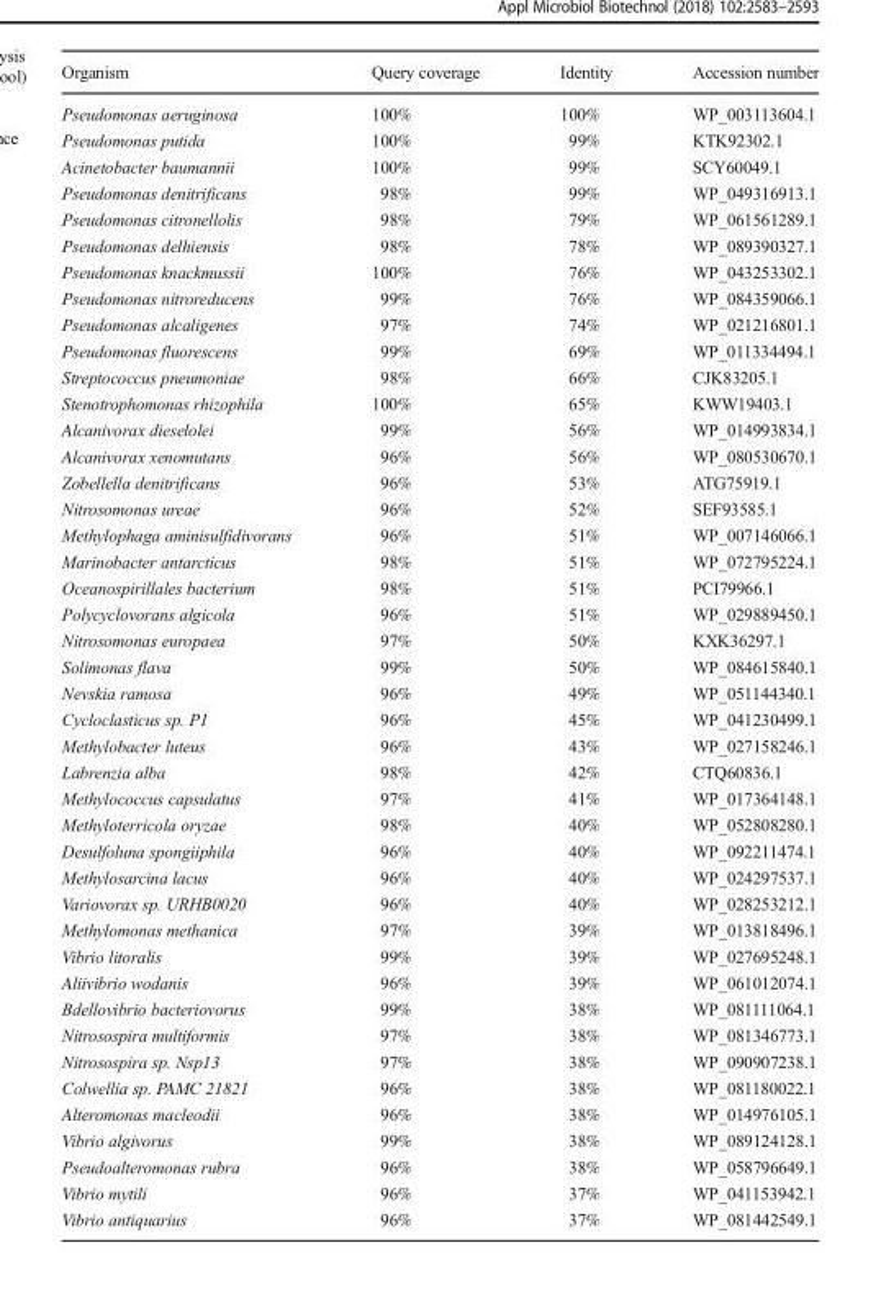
<table><thead><tr><td>Organism</td><td>Query coverage</td><td>Identity</td><td>Accession number</td></tr></thead><tbody><tr><td>Pseudomonas aeruginosa</td><td>100%</td><td>100%</td><td>WP_003113604.1</td></tr><tr><td>Pseudomonas putida</td><td>100%</td><td>99%</td><td>KTK92302.1</td></tr><tr><td>Acinetobacter baumannii</td><td>100%</td><td>99%</td><td>SCY60049.1</td></tr><tr><td>Pseudomonas denitrificans</td><td>98%</td><td>99%</td><td>WP_049316913.1</td></tr><tr><td>Pseudomonas citronellolis</td><td>98%</td><td>79%</td><td>WP_061561289.1</td></tr><tr><td>Pseudomonas delhiensis</td><td>98%</td><td>78%</td><td>WP_089390327.1</td></tr><tr><td>Pseudomonas knackmussii</td><td>100%</td><td>76%</td><td>WP_043253302.1</td></tr><tr><td>Pseudomonas nitroreducens</td><td>99%</td><td>76%</td><td>WP_084359066.1</td></tr><tr><td>Pseudomonas alcaligenes</td><td>97%</td><td>74%</td><td>WP_021216801.1</td></tr><tr><td>Pseudomonas fluorescens</td><td>99%</td><td>69%</td><td>WP_011334494.1</td></tr><tr><td>Streptococcus pneumoniae</td><td>98%</td><td>66%</td><td>CJK83205.1</td></tr><tr><td>Stenotrophomonas rhizophila</td><td>100%</td><td>65%</td><td>KWW19403.1</td></tr><tr><td>Alcanivorax dieselolei</td><td>99%</td><td>56%</td><td>WP_014993834.1</td></tr><tr><td>Alcanivorax xenomutans</td><td>96%</td><td>56%</td><td>WP_080530670.1</td></tr><tr><td>Zobellella denitrificans</td><td>96%</td><td>53%</td><td>ATG75919.1</td></tr><tr><td>Nitrosomonas ureae</td><td>96%</td><td>52%</td><td>SEF93585.1</td></tr><tr><td>Methylophaga aminisulfidivorans</td><td>96%</td><td>51%</td><td>WP_007146066.1</td></tr><tr><td>Marinobacter antarcticus</td><td>98%</td><td>51%</td><td>WP_072795224.1</td></tr><tr><td>Oceanospirillales bacterium</td><td>98%</td><td>51%</td><td>PCI79966.1</td></tr><tr><td>Polycyclovorans algicola</td><td>96%</td><td>51%</td><td>WP_029889450.1</td></tr><tr><td>Nitrosomonas europaea</td><td>97%</td><td>50%</td><td>KXK36297.1</td></tr><tr><td>Solimonas flava</td><td>99%</td><td>50%</td><td>WP_084615840.1</td></tr><tr><td>Nevskia ramosa</td><td>96%</td><td>49%</td><td>WP_051144340.1</td></tr><tr><td>Cycloclasticus sp. P1</td><td>96%</td><td>45%</td><td>WP_041230499.1</td></tr><tr><td>Methylobacter luteus</td><td>96%</td><td>43%</td><td>WP_027158246.1</td></tr><tr><td>Labrenzia alba</td><td>98%</td><td>42%</td><td>CTQ60836.1</td></tr><tr><td>Methylococcus capsulatus</td><td>97%</td><td>41%</td><td>WP_017364148.1</td></tr><tr><td>Methyloterricola oryzae</td><td>98%</td><td>40%</td><td>WP_052808280.1</td></tr><tr><td>Desulfoluna spongiiphila</td><td>96%</td><td>40%</td><td>WP_092211474.1</td></tr><tr><td>Methylosarcina lacus</td><td>96%</td><td>40%</td><td>WP_024297537.1</td></tr><tr><td>Variovorax sp. URHB0020</td><td>96%</td><td>40%</td><td>WP_028253212.1</td></tr><tr><td>Methylomonas methanica</td><td>97%</td><td>39%</td><td>WP_013818496.1</td></tr><tr><td>Vibrio litoralis</td><td>99%</td><td>39%</td><td>WP_027695248.1</td></tr><tr><td>Aliivibrio wodanis</td><td>96%</td><td>39%</td><td>WP_061012074.1</td></tr><tr><td>Bdellovibrio bacteriovorus</td><td>99%</td><td>38%</td><td>WP_081111064.1</td></tr><tr><td>Nitrosospira multiformis</td><td>97%</td><td>38%</td><td>WP_081346773.1</td></tr><tr><td>Nitrosospira sp. Nsp13</td><td>97%</td><td>38%</td><td>WP_090907238.1</td></tr><tr><td>Colwellia sp. PAMC 21821</td><td>96%</td><td>38%</td><td>WP_081180022.1</td></tr><tr><td>Alteromonas macleodii</td><td>96%</td><td>38%</td><td>WP_014976105.1</td></tr><tr><td>Vibrio algivorus</td><td>99%</td><td>38%</td><td>WP_089124128.1</td></tr><tr><td>Pseudoalteromonas rubra</td><td>96%</td><td>38%</td><td>WP_058796649.1</td></tr><tr><td>Vibrio mytili</td><td>96%</td><td>37%</td><td>WP_041153942.1</td></tr><tr><td>Vibrio antiquarius</td><td>96%</td><td>37%</td><td>WP_081442549.1</td></tr></tbody></table>